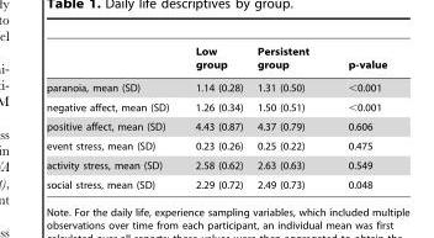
<table><thead><tr><td></td><td>Low group</td><td>Persistent group</td><td>p-value</td></tr></thead><tbody><tr><td>paranoia, mean (SD)</td><td>1.14 (0.28)</td><td>1.31 (0.50)</td><td>&lt;0.001</td></tr><tr><td>negative affect, mean (SD)</td><td>1.26 (0.34)</td><td>1.50 (0.51)</td><td>&lt;0.001</td></tr><tr><td>positive affect, mean (SD)</td><td>4.43 (0.87)</td><td>4.37 (0.79)</td><td>0.606</td></tr><tr><td>event stress, mean (SD)</td><td>0.23 (0.26)</td><td>0.25 (0.22)</td><td>0.475</td></tr><tr><td>activity stress, mean (SD)</td><td>2.58 (0.62)</td><td>2.63 (0.63)</td><td>0.549</td></tr><tr><td>social stress, mean (SD)</td><td>2.29 (0.72)</td><td>2.49 (0.73)</td><td>0.048</td></tr></tbody></table>